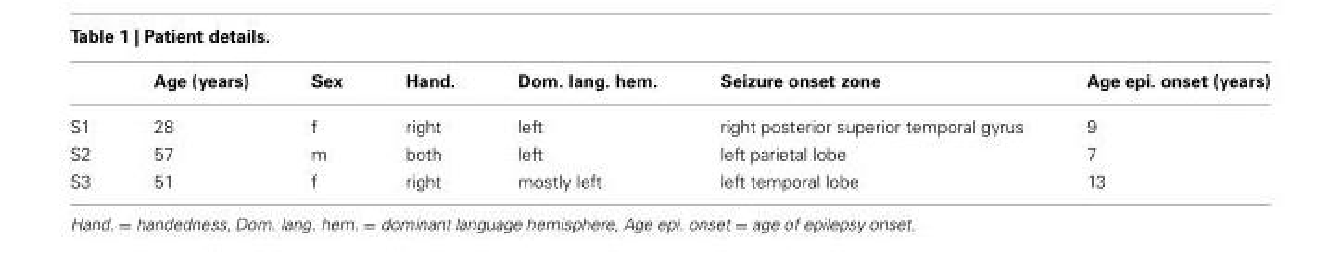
<table><thead><tr><td></td><td>Age (years)</td><td>Sex</td><td>Hand.</td><td>Dom. lang. hem.</td><td>Seizure onset zone</td><td>Age epi. onset (years)</td></tr></thead><tbody><tr><td>S1</td><td>28</td><td>f</td><td>right</td><td>left</td><td>right posterior superior temporal gyrus</td><td>9</td></tr><tr><td>S2</td><td>57</td><td>m</td><td>both</td><td>left</td><td>left parietal lobe</td><td>7</td></tr><tr><td>S3</td><td>51</td><td>f</td><td>right</td><td>mostly left</td><td>left temporal lobe</td><td>13</td></tr></tbody></table>